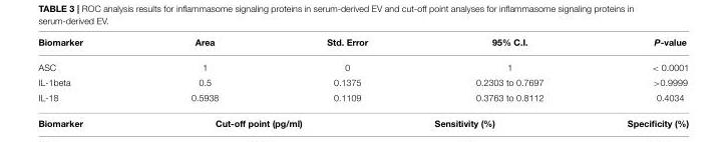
<table><thead><tr><td>Biomarker</td><td>Area</td><td>Std. Error</td><td>95% C.I.</td><td>P-value</td></tr></thead><tbody><tr><td>ASC</td><td>1</td><td>0</td><td>1</td><td>&lt; 0.0001</td></tr><tr><td>IL-1beta</td><td>0.5</td><td>0.1375</td><td>0.2303 to 0.7697</td><td>&gt;0.9999</td></tr><tr><td>IL-18</td><td>0.5938</td><td>0.1109</td><td>0.3763 to 0.8112</td><td>0.4034</td></tr></tbody></table>